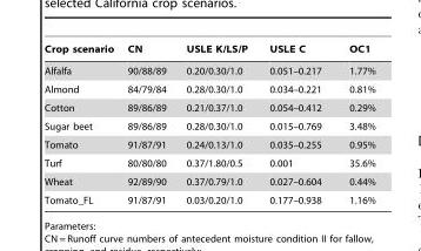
<table><thead><tr><td>Crop scenario</td><td>CN</td><td>USLE K/LS/P</td><td>USLE C</td><td>OC1</td></tr></thead><tbody><tr><td>Alfalfa</td><td>90/88/89</td><td>0.20/0.30/1.0</td><td>0.051–0.217</td><td>1.77%</td></tr><tr><td>Almond</td><td>84/79/84</td><td>0.28/0.30/1.0</td><td>0.034–0.221</td><td>0.81%</td></tr><tr><td>Cotton</td><td>89/86/89</td><td>0.21/0.37/1.0</td><td>0.054–0.412</td><td>0.29%</td></tr><tr><td>Sugar beet</td><td>89/86/89</td><td>0.28/0.30/1.0</td><td>0.015–0.769</td><td>3.48%</td></tr><tr><td>Tomato</td><td>91/87/91</td><td>0.24/0.13/1.0</td><td>0.035–0.255</td><td>0.95%</td></tr><tr><td>Turf</td><td>80/80/80</td><td>0.37/1.80/0.5</td><td>0.001</td><td>35.6%</td></tr><tr><td>Wheat</td><td>92/89/90</td><td>0.37/0.79/1.0</td><td>0.027–0.604</td><td>0.44%</td></tr><tr><td>Tomato_FL</td><td>91/87/91</td><td>0.03/0.20/1.0</td><td>0.177–0.938</td><td>1.16%</td></tr></tbody></table>